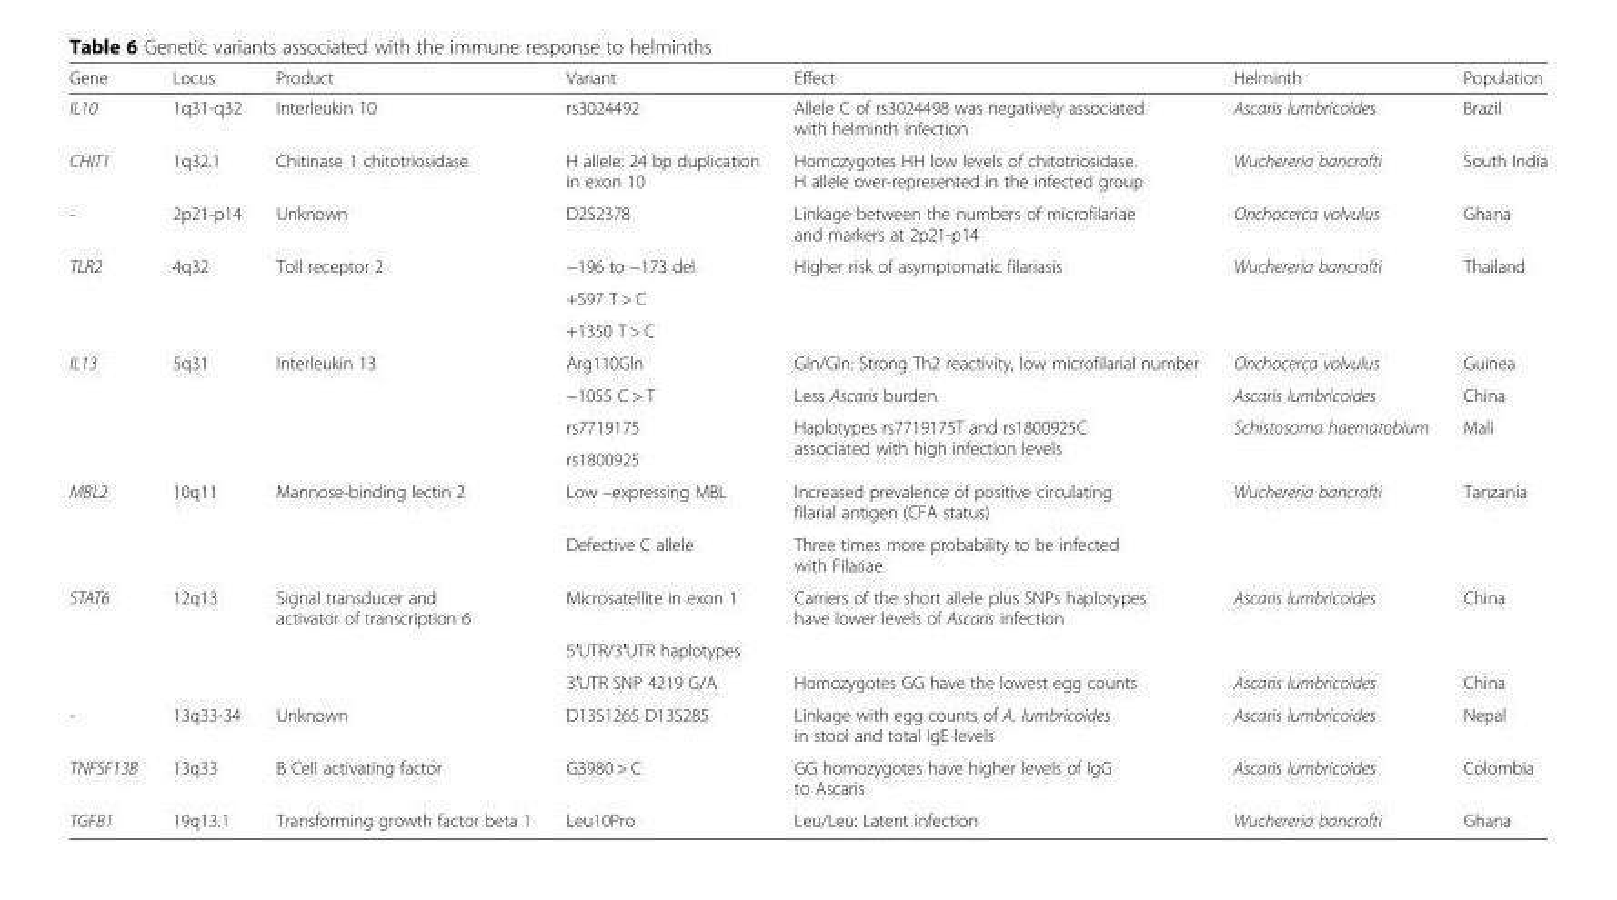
<table><thead><tr><td>Gene</td><td>Locus</td><td>Product</td><td>Variant</td><td>Effect</td><td>Helminth</td><td>Population</td></tr></thead><tbody><tr><td>IL10</td><td>1q31-q32</td><td>Interleukin 10</td><td>rs3024492</td><td>Allele C of rs3024498 was negatively associated with helminth infection</td><td>Ascaris lumbricoides</td><td>Brazil</td></tr><tr><td>CHIT1</td><td>1q32.1</td><td>Chitinase 1 chitotriosidase</td><td>H allele: 24 bp duplication in exon 10</td><td>Homozygotes HH low levels of chitotriosidase. H allele over-represented in the infected group</td><td>Wuchereria bancrofti</td><td>South India</td></tr><tr><td>-</td><td>2p21-p14</td><td>Unknown</td><td>D2S2378</td><td>Linkage between the numbers of microfilariae and markers at 2p21-p14</td><td>Onchocerca volvulus</td><td>Ghana</td></tr><tr><td rowspan="3">TLR2</td><td rowspan="3">4q32</td><td rowspan="3">Toll receptor 2</td><td>−196 to −173 del</td><td rowspan="3">Higher risk of asymptomatic filariasis</td><td rowspan="3">Wuchereria bancrofti</td><td rowspan="3">Thailand</td></tr><tr><td>+597 T &gt; C</td></tr><tr><td>+1350 T &gt; C</td></tr><tr><td rowspan="4">IL13</td><td rowspan="4">5q31</td><td rowspan="4">Interleukin 13</td><td>Arg110Gln</td><td>Gln/Gln: Strong Th2 reactivity, low microfilarial number</td><td>Onchocerca volvulus</td><td>Guinea</td></tr><tr><td>−1055 C &gt; T</td><td>Less Ascaris burden</td><td>Ascaris lumbricoides</td><td>China</td></tr><tr><td>rs7719175</td><td rowspan="2">Haplotypes rs7719175T and rs1800925C associated with high infection levels</td><td rowspan="2">Schistosoma haematobium</td><td rowspan="2">Mali</td></tr><tr><td>rs1800925</td></tr><tr><td rowspan="2">MBL2</td><td rowspan="2">10q11</td><td rowspan="2">Mannose-binding lectin 2</td><td>Low –expressing MBL</td><td>Increased prevalence of positive circulating filarial antigen (CFA status)</td><td rowspan="2">Wuchereria bancrofti</td><td rowspan="2">Tanzania</td></tr><tr><td>Defective C allele</td><td>Three times more probability to be infected with Filariae</td></tr><tr><td rowspan="3">STAT6</td><td rowspan="3">12q13</td><td rowspan="3">Signal transducer and activator of transcription 6</td><td>Microsatellite in exon 1</td><td>Carriers of the short allele plus SNPs haplotypes have lower levels of Ascaris infection</td><td>Ascaris lumbricoides</td><td>China</td></tr><tr><td>5′UTR/3′UTR haplotypes</td><td></td><td></td><td></td></tr><tr><td>3′UTR SNP 4219 G/A</td><td>Homozygotes GG have the lowest egg counts</td><td>Ascaris lumbricoides</td><td>China</td></tr><tr><td>-</td><td>13q33-34</td><td>Unknown</td><td>D13S1265 D13S285</td><td>Linkage with egg counts of A. lumbricoides in stool and total IgE levels</td><td>Ascaris lumbricoides</td><td>Nepal</td></tr><tr><td>TNFSF13B</td><td>13q33</td><td>B Cell activating factor</td><td>G3980 &gt; C</td><td>GG homozygotes have higher levels of IgG to Ascaris</td><td>Ascaris lumbricoides</td><td>Colombia</td></tr><tr><td>TGFB1</td><td>19q13.1</td><td>Transforming growth factor beta 1</td><td>Leu10Pro</td><td>Leu/Leu: Latent infection</td><td>Wuchereria bancrofti</td><td>Ghana</td></tr></tbody></table>